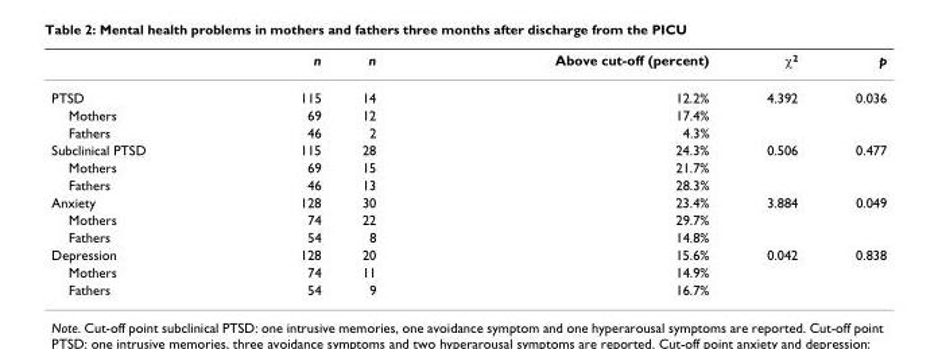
<table><thead><tr><td></td><td>n</td><td>n</td><td>Above cut-off (percent)</td><td>χ<sup>2</sup></td><td>p</td></tr></thead><tbody><tr><td>PTSD</td><td>115</td><td>14</td><td>12.2%</td><td>4.392</td><td>0.036</td></tr><tr><td>Mothers</td><td>69</td><td>12</td><td>17.4%</td><td></td><td></td></tr><tr><td>Fathers</td><td>46</td><td>2</td><td>4.3%</td><td></td><td></td></tr><tr><td>Subclinical PTSD</td><td>115</td><td>28</td><td>24.3%</td><td>0.506</td><td>0.477</td></tr><tr><td>Mothers</td><td>69</td><td>15</td><td>21.7%</td><td></td><td></td></tr><tr><td>Fathers</td><td>46</td><td>13</td><td>28.3%</td><td></td><td></td></tr><tr><td>Anxiety</td><td>128</td><td>30</td><td>23.4%</td><td>3.884</td><td>0.049</td></tr><tr><td>Mothers</td><td>74</td><td>22</td><td>29.7%</td><td></td><td></td></tr><tr><td>Fathers</td><td>54</td><td>8</td><td>14.8%</td><td></td><td></td></tr><tr><td>Depression</td><td>128</td><td>20</td><td>15.6%</td><td>0.042</td><td>0.838</td></tr><tr><td>Mothers</td><td>74</td><td>11</td><td>14.9%</td><td></td><td></td></tr><tr><td>Fathers</td><td>54</td><td>9</td><td>16.7%</td><td></td><td></td></tr></tbody></table>